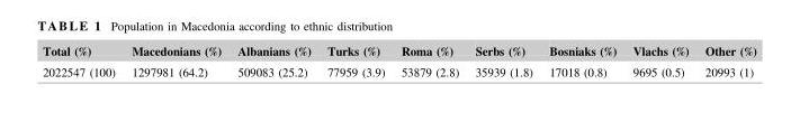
<table><thead><tr><td>Total (%)</td><td>Macedonians (%)</td><td>Albanians (%)</td><td>Turks (%)</td><td>Roma (%)</td><td>Serbs (%)</td><td>Bosniaks (%)</td><td>Vlachs (%)</td><td>Other (%)</td></tr></thead><tbody><tr><td>2022547 (100)</td><td>1297981 (64.2)</td><td>509083 (25.2)</td><td>77959 (3.9)</td><td>53879 (2.8)</td><td>35939 (1.8)</td><td>17018 (0.8)</td><td>9695 (0.5)</td><td>20993 (1)</td></tr></tbody></table>